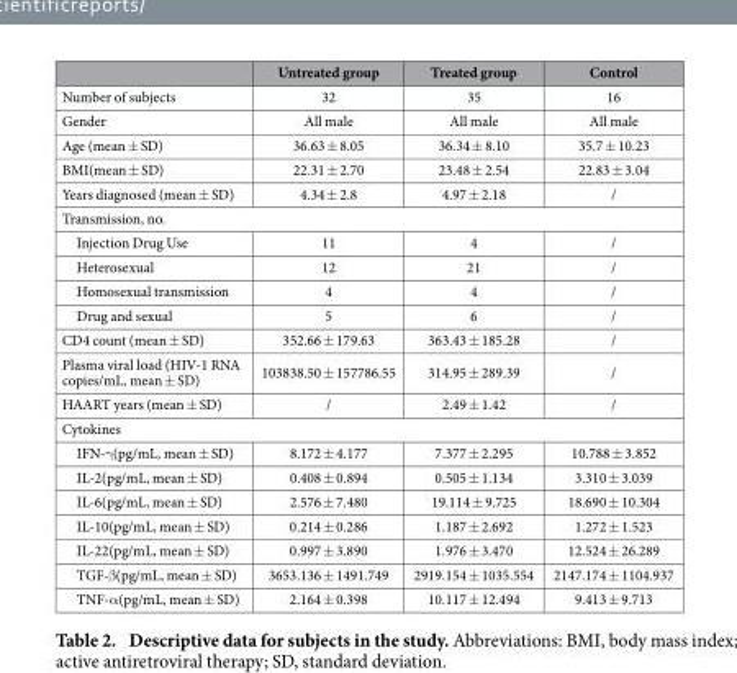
<table><thead><tr><td></td><td>Untreated group</td><td>Treated group</td><td>Control</td></tr></thead><tbody><tr><td>Number of subjects</td><td>32</td><td>35</td><td>16</td></tr><tr><td>Gender</td><td>All male</td><td>All male</td><td>All male</td></tr><tr><td>Age (mean ± SD)</td><td>36.63 ± 8.05</td><td>36.34 ± 8.10</td><td>35.7 ± 10.23</td></tr><tr><td>BMI(mean ± SD)</td><td>22.31 ± 2.70</td><td>23.48 ± 2.54</td><td>22.83 ± 3.04</td></tr><tr><td>Years diagnosed (mean ± SD)</td><td>4.34 ± 2.8</td><td>4.97 ± 2.18</td><td>/</td></tr><tr><td colspan="4">Transmission, no.</td></tr><tr><td>Injection Drug Use</td><td>11</td><td>4</td><td>/</td></tr><tr><td>Heterosexual</td><td>12</td><td>21</td><td>/</td></tr><tr><td>Homosexual transmission</td><td>4</td><td>4</td><td>/</td></tr><tr><td>Drug and sexual</td><td>5</td><td>6</td><td>/</td></tr><tr><td>CD4 count (mean ± SD)</td><td>352.66 ± 179.63</td><td>363.43 ± 185.28</td><td>/</td></tr><tr><td>Plasma viral load (HIV-1 RNA copies/mL, mean ± SD)</td><td>103838.50 ± 157786.55</td><td>314.95 ± 289.39</td><td>/</td></tr><tr><td>HAART years (mean ± SD)</td><td>/</td><td>2.49 ± 1.42</td><td>/</td></tr><tr><td colspan="4">Cytokines</td></tr><tr><td>IFN-γ (pg/mL, mean ± SD)</td><td>8.172 ± 4.177</td><td>7.377 ± 2.295</td><td>10.788 ± 3.852</td></tr><tr><td>IL-2(pg/mL, mean ± SD)</td><td>0.408 ± 0.894</td><td>0.505 ± 1.134</td><td>3.310 ± 3.039</td></tr><tr><td>IL-6(pg/mL, mean ± SD)</td><td>2.576 ± 7.480</td><td>19.114 ± 9.725</td><td>18.690 ± 10.304</td></tr><tr><td>IL-10(pg/mL, mean ± SD)</td><td>0.214 ± 0.286</td><td>1.187 ± 2.692</td><td>1.272 ± 1.523</td></tr><tr><td>IL-22(pg/mL, mean ± SD)</td><td>0.997 ± 3.890</td><td>1.976 ± 3.470</td><td>12.524 ± 26.289</td></tr><tr><td>TGF-β (pg/mL, mean ± SD)</td><td>3653.136 ± 1491.749</td><td>2919.154 ± 1035.554</td><td>2147.174 ± 1104.937</td></tr><tr><td>TNF-α (pg/mL, mean ± SD)</td><td>2.164 ± 0.398</td><td>10.117 ± 12.494</td><td>9.413 ± 9.713</td></tr></tbody></table>